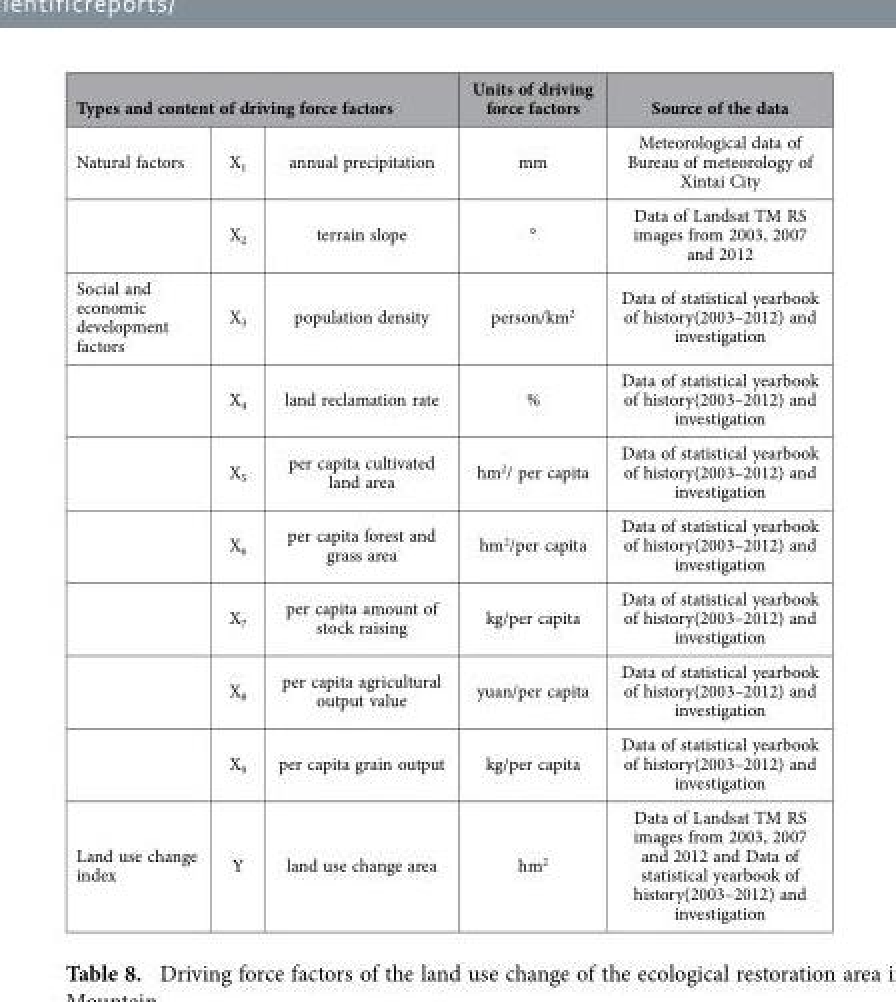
<table><thead><tr><td colspan="3">Types and content of driving force factors</td><td rowspan="2">Units of driving force factors mm</td><td rowspan="2">Source of the data Meteorological data of Bureau of meteorology of Xintai City</td></tr><tr><td>Natural factors</td><td>X<sub>1</sub></td><td>annual precipitation</td></tr></thead><tbody><tr><td></td><td>X<sub>2</sub></td><td>terrain slope</td><td>°</td><td>Data of Landsat TM RS images from 2003, 2007 and 2012</td></tr><tr><td rowspan="7">Social and economic development factors</td><td>X<sub>3</sub></td><td>population density</td><td>person/km<sup>2</sup></td><td>Data of statistical yearbook of history(2003–2012) and investigation</td></tr><tr><td>X<sub>4</sub></td><td>land reclamation rate</td><td>%</td><td>Data of statistical yearbook of history(2003–2012) and investigation</td></tr><tr><td>X<sub>5</sub></td><td>per capita cultivated land area</td><td>hm<sup>2</sup>/ per capita</td><td>Data of statistical yearbook of history(2003–2012) and investigation</td></tr><tr><td>X<sub>6</sub></td><td>per capita forest and grass area</td><td>hm<sup>2</sup>/per capita</td><td>Data of statistical yearbook of history(2003–2012) and investigation</td></tr><tr><td>X<sub>7</sub></td><td>per capita amount of stock raising</td><td>kg/per capita</td><td>Data of statistical yearbook of history(2003–2012) and investigation</td></tr><tr><td>X<sub>8</sub></td><td>per capita agricultural output value</td><td>yuan/per capita</td><td>Data of statistical yearbook of history(2003–2012) and investigation</td></tr><tr><td>X<sub>9</sub></td><td>per capita grain output</td><td>kg/per capita</td><td>Data of statistical yearbook of history(2003–2012) and investigation</td></tr><tr><td>Land use change index</td><td>Y</td><td>land use change area</td><td>hm<sup>2</sup></td><td>Data of Landsat TM RS images from 2003, 2007 and 2012 and Data of statistical yearbook of history(2003–2012) and investigation</td></tr></tbody></table>